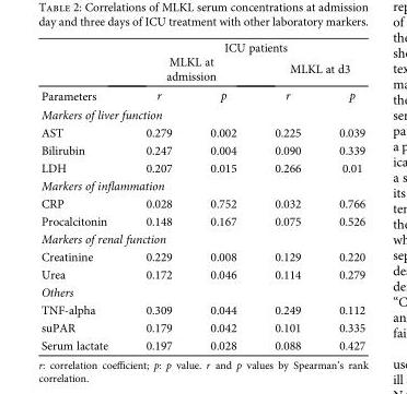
<table><thead><tr><td rowspan="3">Parameters</td><td colspan="4">ICU patients</td></tr><tr><td colspan="2">MLKL at admission</td><td colspan="2">MLKL at d3</td></tr><tr><td>r</td><td>p</td><td>r</td><td>p</td></tr></thead><tbody><tr><td colspan="5">Markers of liver function</td></tr><tr><td>AST</td><td>0.279</td><td>0.002</td><td>0.225</td><td>0.039</td></tr><tr><td>Bilirubin</td><td>0.247</td><td>0.004</td><td>0.090</td><td>0.339</td></tr><tr><td>LDH</td><td>0.207</td><td>0.015</td><td>0.266</td><td>0.01</td></tr><tr><td colspan="5">Markers of inflammation</td></tr><tr><td>CRP</td><td>0.028</td><td>0.752</td><td>0.032</td><td>0.766</td></tr><tr><td>Procalcitonin</td><td>0.148</td><td>0.167</td><td>0.075</td><td>0.526</td></tr><tr><td colspan="5">Markers of renal function</td></tr><tr><td>Creatinine</td><td>0.229</td><td>0.008</td><td>0.129</td><td>0.220</td></tr><tr><td>Urea</td><td>0.172</td><td>0.046</td><td>0.114</td><td>0.279</td></tr><tr><td colspan="5">Others</td></tr><tr><td>TNF-alpha</td><td>0.309</td><td>0.044</td><td>0.249</td><td>0.112</td></tr><tr><td>suPAR</td><td>0.179</td><td>0.042</td><td>0.101</td><td>0.335</td></tr><tr><td>Serum lactate</td><td>0.197</td><td>0.028</td><td>0.088</td><td>0.427</td></tr></tbody></table>